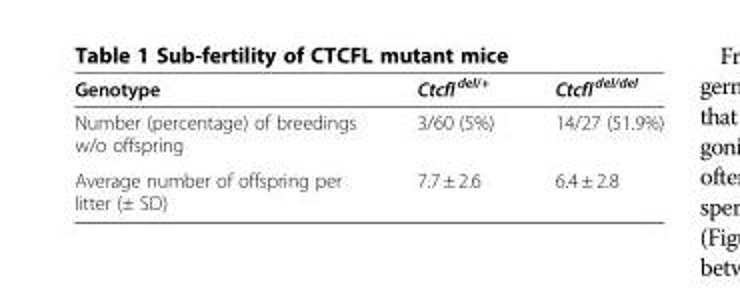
<table><thead><tr><td>Genotype</td><td>Ctcfl <sup>del/+</sup></td><td>Ctcfl <sup>del/del</sup></td></tr></thead><tbody><tr><td>Number (percentage) of breedings w/o offspring</td><td>3/60 (5%)</td><td>14/27 (51.9%)</td></tr><tr><td>Average number of offspring per litter (± SD)</td><td>7.7 ± 2.6</td><td>6.4 ± 2.8</td></tr></tbody></table>